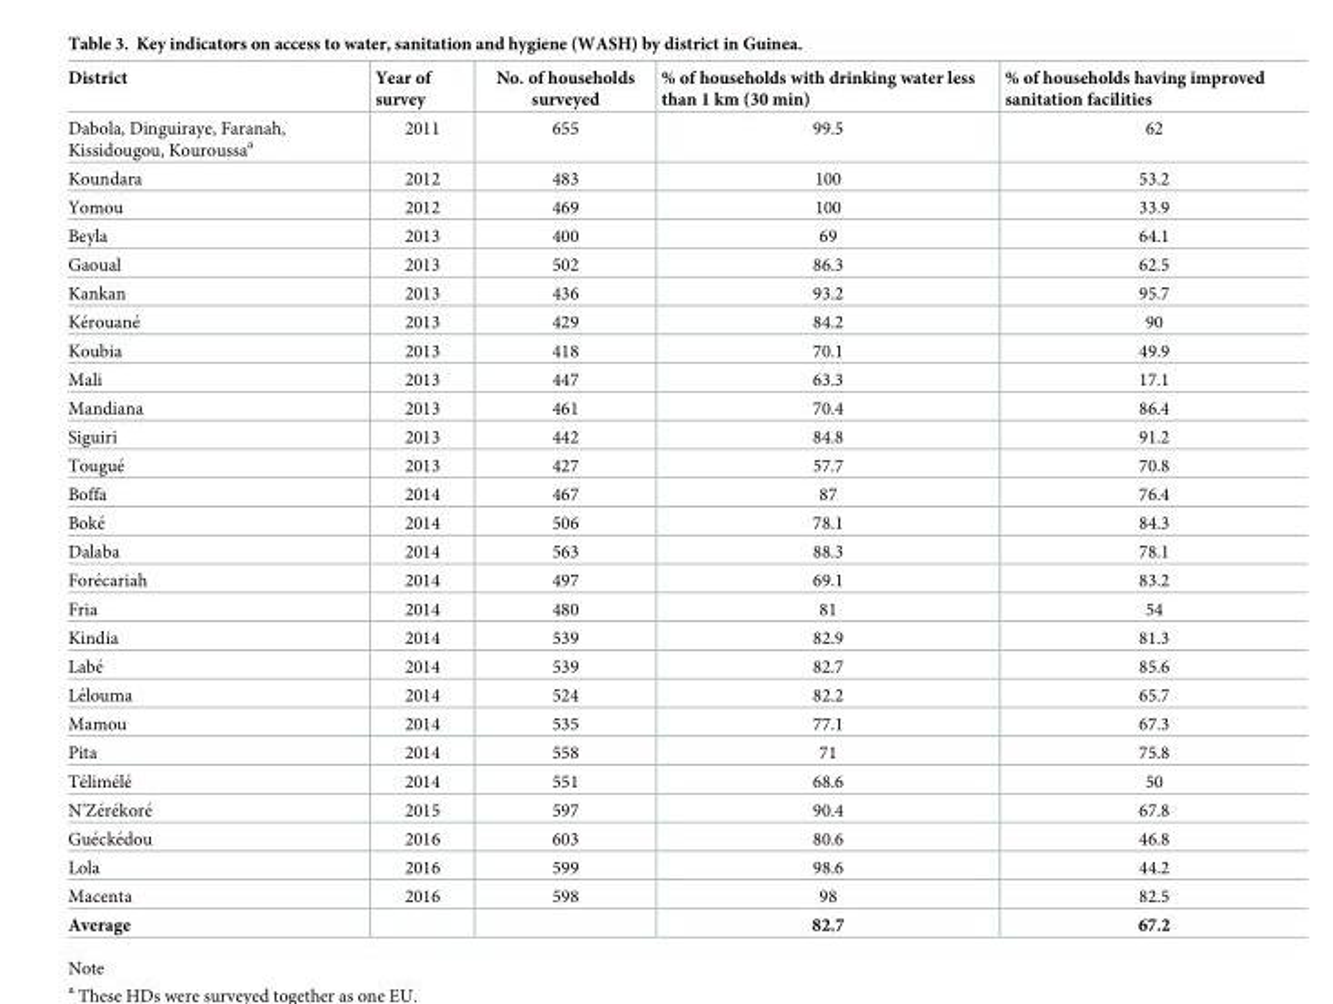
<table><thead><tr><td>District</td><td>Year of survey</td><td>No. of households surveyed</td><td>% of households with drinking water less than 1 km (30 min)</td><td>% of households having improved sanitation facilities</td></tr></thead><tbody><tr><td>Dabola, Dinguiraye, Faranah, Kissidougou, Kouroussa<sup>a</sup></td><td>2011</td><td>655</td><td>99.5</td><td>62</td></tr><tr><td>Koundara</td><td>2012</td><td>483</td><td>100</td><td>53.2</td></tr><tr><td>Yomou</td><td>2012</td><td>469</td><td>100</td><td>33.9</td></tr><tr><td>Beyla</td><td>2013</td><td>400</td><td>69</td><td>64.1</td></tr><tr><td>Gaoual</td><td>2013</td><td>502</td><td>86.3</td><td>62.5</td></tr><tr><td>Kankan</td><td>2013</td><td>436</td><td>93.2</td><td>95.7</td></tr><tr><td>Ke´rouane´</td><td>2013</td><td>429</td><td>84.2</td><td>90</td></tr><tr><td>Koubia</td><td>2013</td><td>418</td><td>70.1</td><td>49.9</td></tr><tr><td>Mali</td><td>2013</td><td>447</td><td>63.3</td><td>17.1</td></tr><tr><td>Mandiana</td><td>2013</td><td>461</td><td>70.4</td><td>86.4</td></tr><tr><td>Siguiri</td><td>2013</td><td>442</td><td>84.8</td><td>91.2</td></tr><tr><td>Tougue´</td><td>2013</td><td>427</td><td>57.7</td><td>70.8</td></tr><tr><td>Boffa</td><td>2014</td><td>467</td><td>87</td><td>76.4</td></tr><tr><td>Boke´</td><td>2014</td><td>506</td><td>78.1</td><td>84.3</td></tr><tr><td>Dalaba</td><td>2014</td><td>563</td><td>88.3</td><td>78.1</td></tr><tr><td>Fore´cariah</td><td>2014</td><td>497</td><td>69.1</td><td>83.2</td></tr><tr><td>Fria</td><td>2014</td><td>480</td><td>81</td><td>54</td></tr><tr><td>Kindia</td><td>2014</td><td>539</td><td>82.9</td><td>81.3</td></tr><tr><td>Labe´</td><td>2014</td><td>539</td><td>82.7</td><td>85.6</td></tr><tr><td>Le´louma</td><td>2014</td><td>524</td><td>82.2</td><td>65.7</td></tr><tr><td>Mamou</td><td>2014</td><td>535</td><td>77.1</td><td>67.3</td></tr><tr><td>Pita</td><td>2014</td><td>558</td><td>71</td><td>75.8</td></tr><tr><td>Te´lime´le´</td><td>2014</td><td>551</td><td>68.6</td><td>50</td></tr><tr><td>N’Ze´re´kore´</td><td>2015</td><td>597</td><td>90.4</td><td>67.8</td></tr><tr><td>Gue´cke´dou</td><td>2016</td><td>603</td><td>80.6</td><td>46.8</td></tr><tr><td>Lola</td><td>2016</td><td>599</td><td>98.6</td><td>44.2</td></tr><tr><td>Macenta</td><td>2016</td><td>598</td><td>98</td><td>82.5</td></tr><tr><td>Average</td><td></td><td></td><td>82.7</td><td>67.2</td></tr></tbody></table>